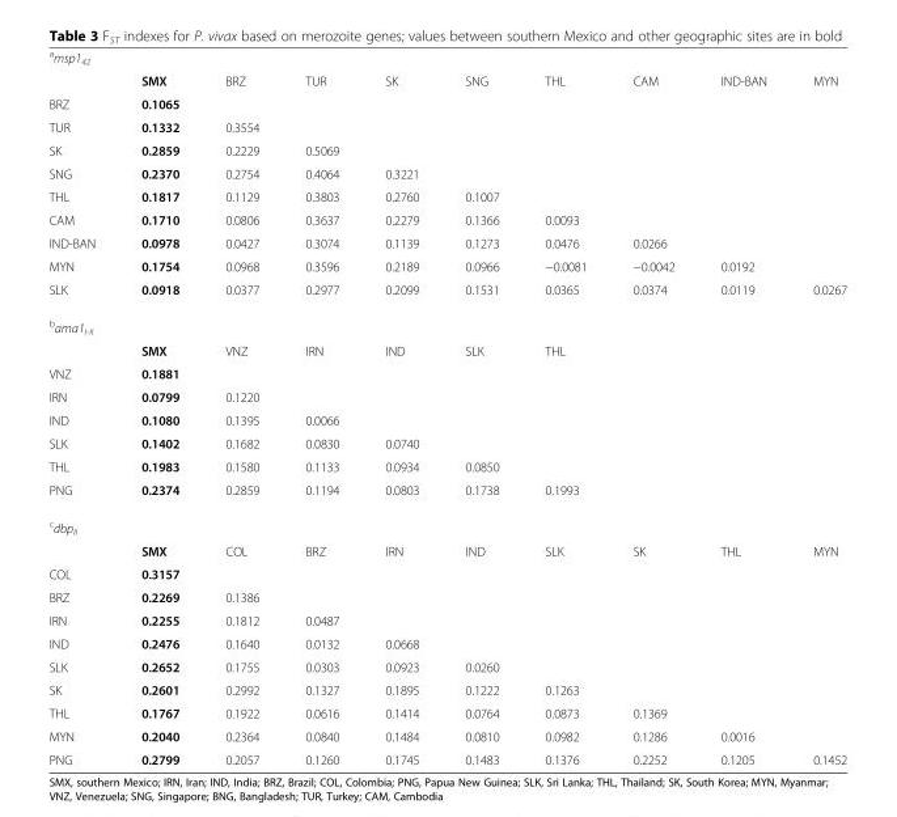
<table><tbody><tr><td colspan="10"><sup>a</sup>msp1<sub>42</sub></td></tr><tr><td></td><td>SMX</td><td>BRZ</td><td>TUR</td><td>SK</td><td>SNG</td><td>THL</td><td>CAM</td><td>IND-BAN</td><td>MYN</td></tr><tr><td>BRZ</td><td>0.1065</td><td></td><td></td><td></td><td></td><td></td><td></td><td></td><td></td></tr><tr><td>TUR</td><td>0.1332</td><td>0.3554</td><td></td><td></td><td></td><td></td><td></td><td></td><td></td></tr><tr><td>SK</td><td>0.2859</td><td>0.2229</td><td>0.5069</td><td></td><td></td><td></td><td></td><td></td><td></td></tr><tr><td>SNG</td><td>0.2370</td><td>0.2754</td><td>0.4064</td><td>0.3221</td><td></td><td></td><td></td><td></td><td></td></tr><tr><td>THL</td><td>0.1817</td><td>0.1129</td><td>0.3803</td><td>0.2760</td><td>0.1007</td><td></td><td></td><td></td><td></td></tr><tr><td>CAM</td><td>0.1710</td><td>0.0806</td><td>0.3637</td><td>0.2279</td><td>0.1366</td><td>0.0093</td><td></td><td></td><td></td></tr><tr><td>IND-BAN</td><td>0.0978</td><td>0.0427</td><td>0.3074</td><td>0.1139</td><td>0.1273</td><td>0.0476</td><td>0.0266</td><td></td><td></td></tr><tr><td>MYN</td><td>0.1754</td><td>0.0968</td><td>0.3596</td><td>0.2189</td><td>0.0966</td><td>−0.0081</td><td>−0.0042</td><td>0.0192</td><td></td></tr><tr><td>SLK</td><td>0.0918</td><td>0.0377</td><td>0.2977</td><td>0.2099</td><td>0.1531</td><td>0.0365</td><td>0.0374</td><td>0.0119</td><td>0.0267</td></tr><tr><td colspan="10"><sup>b</sup>ama1<sub>I-II</sub></td></tr><tr><td></td><td>SMX</td><td>VNZ</td><td>IRN</td><td>IND</td><td>SLK</td><td>THL</td><td colspan="3"></td></tr><tr><td>VNZ</td><td>0.1881</td><td></td><td></td><td></td><td></td><td></td><td colspan="3"></td></tr><tr><td>IRN</td><td>0.0799</td><td>0.1220</td><td></td><td></td><td></td><td></td><td colspan="3"></td></tr><tr><td>IND</td><td>0.1080</td><td>0.1395</td><td>0.0066</td><td></td><td></td><td></td><td colspan="3"></td></tr><tr><td>SLK</td><td>0.1402</td><td>0.1682</td><td>0.0830</td><td>0.0740</td><td></td><td></td><td colspan="3"></td></tr><tr><td>THL</td><td>0.1983</td><td>0.1580</td><td>0.1133</td><td>0.0934</td><td>0.0850</td><td></td><td colspan="3"></td></tr><tr><td>PNG</td><td>0.2374</td><td>0.2859</td><td>0.1194</td><td>0.0803</td><td>0.1738</td><td>0.1993</td><td colspan="3"></td></tr><tr><td colspan="10"><sup>c</sup>dbp<sub>II</sub></td></tr><tr><td></td><td>SMX</td><td>COL</td><td>BRZ</td><td>IRN</td><td>IND</td><td>SLK</td><td>SK</td><td>THL</td><td>MYN</td></tr><tr><td>COL</td><td>0.3157</td><td></td><td></td><td></td><td></td><td></td><td></td><td></td><td></td></tr><tr><td>BRZ</td><td>0.2269</td><td>0.1386</td><td></td><td></td><td></td><td></td><td></td><td></td><td></td></tr><tr><td>IRN</td><td>0.2255</td><td>0.1812</td><td>0.0487</td><td></td><td></td><td></td><td></td><td></td><td></td></tr><tr><td>IND</td><td>0.2476</td><td>0.1640</td><td>0.0132</td><td>0.0668</td><td></td><td></td><td></td><td></td><td></td></tr><tr><td>SLK</td><td>0.2652</td><td>0.1755</td><td>0.0303</td><td>0.0923</td><td>0.0260</td><td></td><td></td><td></td><td></td></tr><tr><td>SK</td><td>0.2601</td><td>0.2992</td><td>0.1327</td><td>0.1895</td><td>0.1222</td><td>0.1263</td><td></td><td></td><td></td></tr><tr><td>THL</td><td>0.1767</td><td>0.1922</td><td>0.0616</td><td>0.1414</td><td>0.0764</td><td>0.0873</td><td>0.1369</td><td></td><td></td></tr><tr><td>MYN</td><td>0.2040</td><td>0.2364</td><td>0.0840</td><td>0.1484</td><td>0.0810</td><td>0.0982</td><td>0.1286</td><td>0.0016</td><td></td></tr><tr><td>PNG</td><td>0.2799</td><td>0.2057</td><td>0.1260</td><td>0.1745</td><td>0.1483</td><td>0.1376</td><td>0.2252</td><td>0.1205</td><td>0.1452</td></tr></tbody></table>